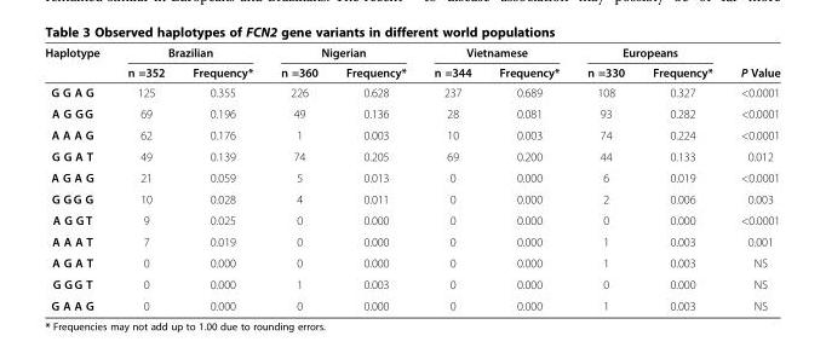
<table><thead><tr><td rowspan="2">Haplotype</td><td colspan="2">Brazilian</td><td colspan="2">Nigerian</td><td colspan="2">Vietnamese</td><td colspan="2">Europeans</td><td rowspan="2">P Value</td></tr><tr><td>n =352</td><td>Frequency*</td><td>n =360</td><td>Frequency*</td><td>n =344</td><td>Frequency*</td><td>n =330</td><td>Frequency*</td></tr></thead><tbody><tr><td>G G A G</td><td>125</td><td>0.355</td><td>226</td><td>0.628</td><td>237</td><td>0.689</td><td>108</td><td>0.327</td><td>&lt;0.0001</td></tr><tr><td>A G G G</td><td>69</td><td>0.196</td><td>49</td><td>0.136</td><td>28</td><td>0.081</td><td>93</td><td>0.282</td><td>&lt;0.0001</td></tr><tr><td>A A A G</td><td>62</td><td>0.176</td><td>1</td><td>0.003</td><td>10</td><td>0.003</td><td>74</td><td>0.224</td><td>&lt;0.0001</td></tr><tr><td>G G A T</td><td>49</td><td>0.139</td><td>74</td><td>0.205</td><td>69</td><td>0.200</td><td>44</td><td>0.133</td><td>0.012</td></tr><tr><td>A G A G</td><td>21</td><td>0.059</td><td>5</td><td>0.013</td><td>0</td><td>0.000</td><td>6</td><td>0.019</td><td>&lt;0.0001</td></tr><tr><td>G G G G</td><td>10</td><td>0.028</td><td>4</td><td>0.011</td><td>0</td><td>0.000</td><td>2</td><td>0.006</td><td>0.003</td></tr><tr><td>A G G T</td><td>9</td><td>0.025</td><td>0</td><td>0.000</td><td>0</td><td>0.000</td><td>0</td><td>0.000</td><td>&lt;0.0001</td></tr><tr><td>A A A T</td><td>7</td><td>0.019</td><td>0</td><td>0.000</td><td>0</td><td>0.000</td><td>1</td><td>0.003</td><td>0.001</td></tr><tr><td>A G A T</td><td>0</td><td>0.000</td><td>0</td><td>0.000</td><td>0</td><td>0.000</td><td>1</td><td>0.003</td><td>NS</td></tr><tr><td>G G G T</td><td>0</td><td>0.000</td><td>1</td><td>0.003</td><td>0</td><td>0.000</td><td>0</td><td>0.000</td><td>NS</td></tr><tr><td>G A A G</td><td>0</td><td>0.000</td><td>0</td><td>0.000</td><td>0</td><td>0.000</td><td>1</td><td>0.003</td><td>NS</td></tr></tbody></table>